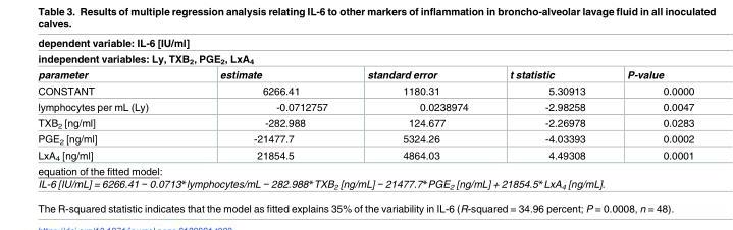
<table><thead><tr><td rowspan="2" colspan="5">dependent variable: IL-6 [IU/ml] independent variables: Ly, TXB<sub>2</sub>, PGE<sub>2</sub>, LxA<sub>4</sub></td></tr><tr></tr><tr><td>parameter</td><td>estimate</td><td>standard error</td><td>t statistic</td><td>P-value</td></tr></thead><tbody><tr><td>CONSTANT</td><td>6266.41</td><td>1180.31</td><td>5.30913</td><td>0.0000</td></tr><tr><td>lymphocytes per mL (Ly)</td><td>-0.0712757</td><td>0.0238974</td><td>-2.98258</td><td>0.0047</td></tr><tr><td>TXB<sub>2</sub> [ng/ml]</td><td>-282.988</td><td>124.677</td><td>-2.26978</td><td>0.0283</td></tr><tr><td>PGE<sub>2</sub> [ng/ml]</td><td>-21477.7</td><td>5324.26</td><td>-4.03393</td><td>0.0002</td></tr><tr><td>LxA<sub>4</sub> [ng/ml]</td><td>21854.5</td><td>4864.03</td><td>4.49308</td><td>0.0001</td></tr><tr><td colspan="5">equation of the fitted model: IL-6 [IU/mL] = 6266.41 − 0.0713*lymphocytes/mL − 282.988*TXB<sub>2</sub> [ng/mL] − 21477.7*PGE<sub>2</sub> [ng/mL] + 21854.5*LxA<sub>4</sub> [ng/mL].</td></tr></tbody></table>